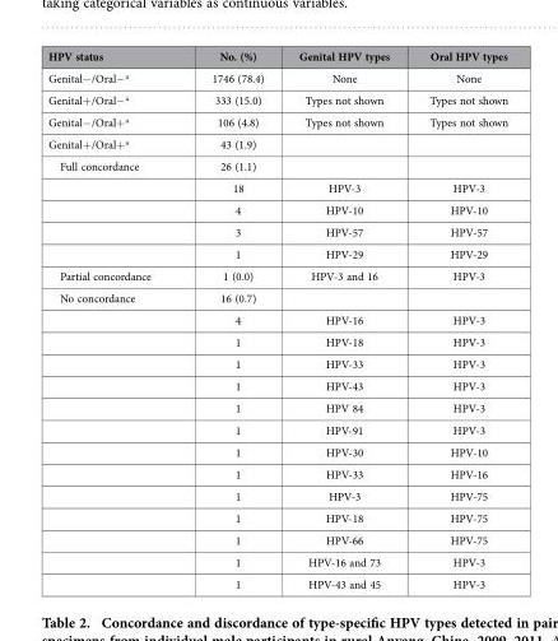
<table><thead><tr><td>HPV status</td><td>No. (%)</td><td>Genital HPV types</td><td>Oral HPV types</td></tr></thead><tbody><tr><td>Genital− /Oral− a</td><td>1746 (78.4)</td><td>None</td><td>None</td></tr><tr><td>Genital+ /Oral− a</td><td>333 (15.0)</td><td>Types not shown</td><td>Types not shown</td></tr><tr><td>Genital− /Oral+ <sup>a</sup></td><td>106 (4.8)</td><td>Types not shown</td><td>Types not shown</td></tr><tr><td>Genital+ /Oral+ <sup>a</sup></td><td>43 (1.9)</td><td></td><td></td></tr><tr><td rowspan="5">Full concordance</td><td>26 (1.1)</td><td></td><td></td></tr><tr><td>18</td><td>HPV-3</td><td>HPV-3</td></tr><tr><td>4</td><td>HPV-10</td><td>HPV-10</td></tr><tr><td>3</td><td>HPV-57</td><td>HPV-57</td></tr><tr><td>1</td><td>HPV-29</td><td>HPV-29</td></tr><tr><td>Partial concordance</td><td>1 (0.0)</td><td>HPV-3 and 16</td><td>HPV-3</td></tr><tr><td rowspan="14">No concordance</td><td>16 (0.7)</td><td></td><td></td></tr><tr><td>4</td><td>HPV-16</td><td>HPV-3</td></tr><tr><td>1</td><td>HPV-18</td><td>HPV-3</td></tr><tr><td>1</td><td>HPV-33</td><td>HPV-3</td></tr><tr><td>1</td><td>HPV-43</td><td>HPV-3</td></tr><tr><td>1</td><td>HPV 84</td><td>HPV-3</td></tr><tr><td>1</td><td>HPV-91</td><td>HPV-3</td></tr><tr><td>1</td><td>HPV-30</td><td>HPV-10</td></tr><tr><td>1</td><td>HPV-33</td><td>HPV-16</td></tr><tr><td>1</td><td>HPV-3</td><td>HPV-75</td></tr><tr><td>1</td><td>HPV-18</td><td>HPV-75</td></tr><tr><td>1</td><td>HPV-66</td><td>HPV-75</td></tr><tr><td>1</td><td>HPV-16 and 73</td><td>HPV-3</td></tr><tr><td>1</td><td>HPV-43 and 45</td><td>HPV-3</td></tr></tbody></table>